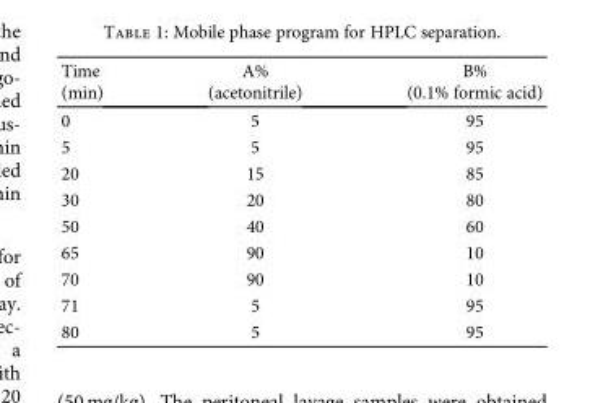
<table><thead><tr><td>Time (min)</td><td>A% (acetonitrile)</td><td>B% (0.1% formic acid)</td></tr></thead><tbody><tr><td>0</td><td>5</td><td>95</td></tr><tr><td>5</td><td>5</td><td>95</td></tr><tr><td>20</td><td>15</td><td>85</td></tr><tr><td>30</td><td>20</td><td>80</td></tr><tr><td>50</td><td>40</td><td>60</td></tr><tr><td>65</td><td>90</td><td>10</td></tr><tr><td>70</td><td>90</td><td>10</td></tr><tr><td>71</td><td>5</td><td>95</td></tr><tr><td>80</td><td>5</td><td>95</td></tr></tbody></table>